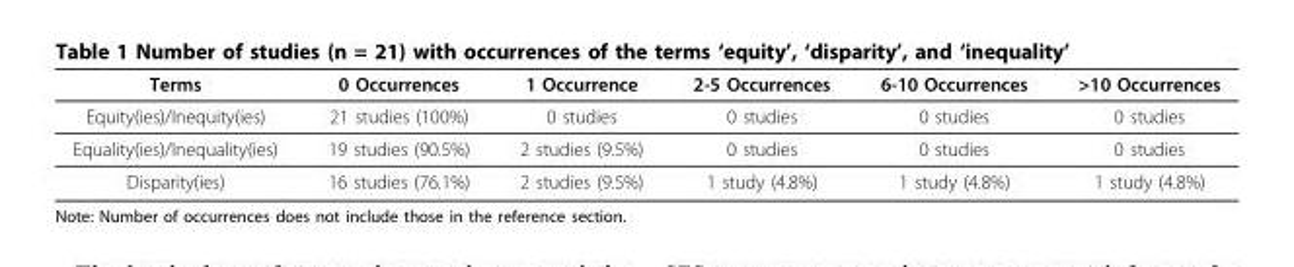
<table><thead><tr><td>Terms</td><td>0 Occurrences</td><td>1 Occurrence</td><td>2-5 Occurrences</td><td>6-10 Occurrences</td><td>&gt;10 Occurrences</td></tr></thead><tbody><tr><td>Equity(ies)/Inequity(ies)</td><td>21 studies (100%)</td><td>0 studies</td><td>0 studies</td><td>0 studies</td><td>0 studies</td></tr><tr><td>Equality(ies)/Inequality(ies)</td><td>19 studies (90.5%)</td><td>2 studies (9.5%)</td><td>0 studies</td><td>0 studies</td><td>0 studies</td></tr><tr><td>Disparity(ies)</td><td>16 studies (76.1%)</td><td>2 studies (9.5%)</td><td>1 study (4.8%)</td><td>1 study (4.8%)</td><td>1 study (4.8%)</td></tr></tbody></table>